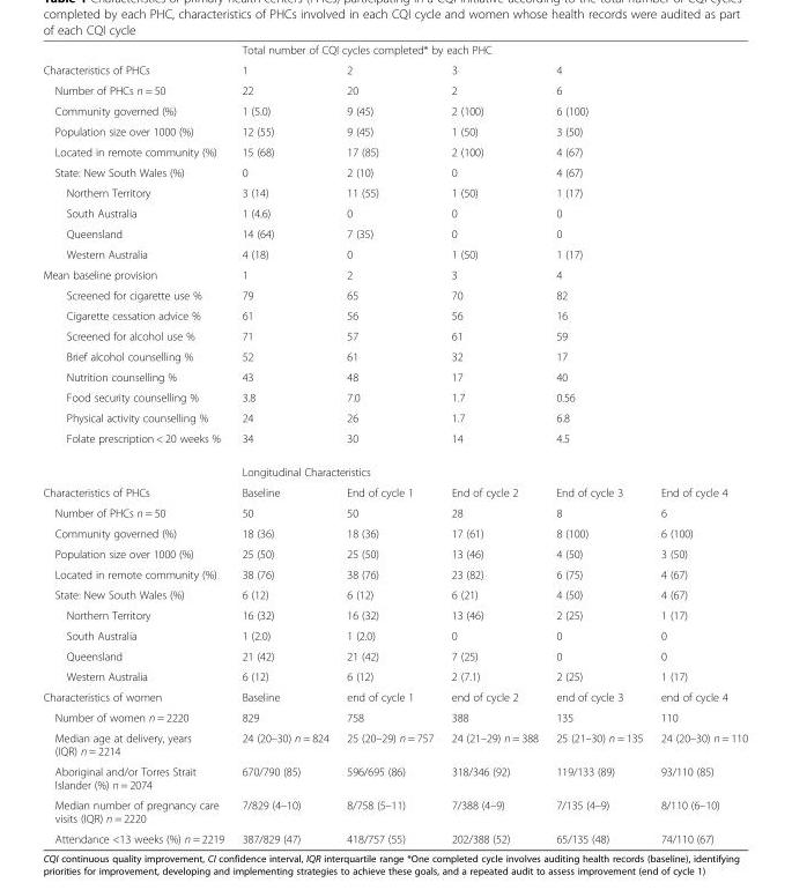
<table><thead><tr><td></td><td colspan="5">Total number of CQI cycles completed* by each PHC</td></tr></thead><tbody><tr><td>Characteristics of PHCs</td><td>1</td><td>2</td><td>3</td><td colspan="2">4</td></tr><tr><td>Number of PHCs n = 50</td><td>22</td><td>20</td><td>2</td><td colspan="2">6</td></tr><tr><td>Community governed (%)</td><td>1 (5.0)</td><td>9 (45)</td><td>2 (100)</td><td colspan="2">6 (100)</td></tr><tr><td>Population size over 1000 (%)</td><td>12 (55)</td><td>9 (45)</td><td>1 (50)</td><td colspan="2">3 (50)</td></tr><tr><td>Located in remote community (%)</td><td>15 (68)</td><td>17 (85)</td><td>2 (100)</td><td colspan="2">4 (67)</td></tr><tr><td>State: New South Wales (%)</td><td>0</td><td>2 (10)</td><td>0</td><td colspan="2">4 (67)</td></tr><tr><td>Northern Territory</td><td>3 (14)</td><td>11 (55)</td><td>1 (50)</td><td colspan="2">1 (17)</td></tr><tr><td>South Australia</td><td>1 (4.6)</td><td>0</td><td>0</td><td colspan="2">0</td></tr><tr><td>Queensland</td><td>14 (64)</td><td>7 (35)</td><td>0</td><td colspan="2">0</td></tr><tr><td>Western Australia</td><td>4 (18)</td><td>0</td><td>1 (50)</td><td colspan="2">1 (17)</td></tr><tr><td>Mean baseline provision</td><td>1</td><td>2</td><td>3</td><td colspan="2">4</td></tr><tr><td>Screened for cigarette use %</td><td>79</td><td>65</td><td>70</td><td colspan="2">82</td></tr><tr><td>Cigarette cessation advice %</td><td>61</td><td>56</td><td>56</td><td colspan="2">16</td></tr><tr><td>Screened for alcohol use %</td><td>71</td><td>57</td><td>61</td><td colspan="2">59</td></tr><tr><td>Brief alcohol counselling %</td><td>52</td><td>61</td><td>32</td><td colspan="2">17</td></tr><tr><td>Nutrition counselling %</td><td>43</td><td>48</td><td>17</td><td colspan="2">40</td></tr><tr><td>Food security counselling %</td><td>3.8</td><td>7.0</td><td>1.7</td><td colspan="2">0.56</td></tr><tr><td>Physical activity counselling %</td><td>24</td><td>26</td><td>1.7</td><td colspan="2">6.8</td></tr><tr><td rowspan="2">Folate prescription &lt; 20 weeks %</td><td>34</td><td>30</td><td>14</td><td colspan="2">4.5</td></tr><tr><td colspan="5">Longitudinal Characteristics</td></tr><tr><td>Characteristics of PHCs</td><td>Baseline</td><td>End of cycle 1</td><td>End of cycle 2</td><td>End of cycle 3</td><td>End of cycle 4</td></tr><tr><td>Number of PHCs n = 50</td><td>50</td><td>50</td><td>28</td><td>8</td><td>6</td></tr><tr><td>Community governed (%)</td><td>18 (36)</td><td>18 (36)</td><td>17 (61)</td><td>8 (100)</td><td>6 (100)</td></tr><tr><td>Population size over 1000 (%)</td><td>25 (50)</td><td>25 (50)</td><td>13 (46)</td><td>4 (50)</td><td>3 (50)</td></tr><tr><td>Located in remote community (%)</td><td>38 (76)</td><td>38 (76)</td><td>23 (82)</td><td>6 (75)</td><td>4 (67)</td></tr><tr><td>State: New South Wales (%)</td><td>6 (12)</td><td>6 (12)</td><td>6 (21)</td><td>4 (50)</td><td>4 (67)</td></tr><tr><td>Northern Territory</td><td>16 (32)</td><td>16 (32)</td><td>13 (46)</td><td>2 (25)</td><td>1 (17)</td></tr><tr><td>South Australia</td><td>1 (2.0)</td><td>1 (2.0)</td><td>0</td><td>0</td><td>0</td></tr><tr><td>Queensland</td><td>21 (42)</td><td>21 (42)</td><td>7 (25)</td><td>0</td><td>0</td></tr><tr><td>Western Australia</td><td>6 (12)</td><td>6 (12)</td><td>2 (7.1)</td><td>2 (25)</td><td>1 (17)</td></tr><tr><td>Characteristics of women</td><td>Baseline</td><td>end of cycle 1</td><td>end of cycle 2</td><td>end of cycle 3</td><td>end of cycle 4</td></tr><tr><td>Number of women n = 2220</td><td>829</td><td>758</td><td>388</td><td>135</td><td>110</td></tr><tr><td>Median age at delivery, years (IQR) n = 2214</td><td>24 (20–30) n = 824</td><td>25 (20–29) n = 757</td><td>24 (21–29) n = 388</td><td>25 (21–30) n = 135</td><td>24 (20–30) n = 110</td></tr><tr><td>Aboriginal and/or Torres Strait Islander (%) n = 2074</td><td>670/790 (85)</td><td>596/695 (86)</td><td>318/346 (92)</td><td>119/133 (89)</td><td>93/110 (85)</td></tr><tr><td>Median number of pregnancy care visits (IQR) n = 2220</td><td>7/829 (4–10)</td><td>8/758 (5–11)</td><td>7/388 (4–9)</td><td>7/135 (4–9)</td><td>8/110 (6–10)</td></tr><tr><td>Attendance &lt;13 weeks (%) n = 2219</td><td>387/829 (47)</td><td>418/757 (55)</td><td>202/388 (52)</td><td>65/135 (48)</td><td>74/110 (67)</td></tr></tbody></table>